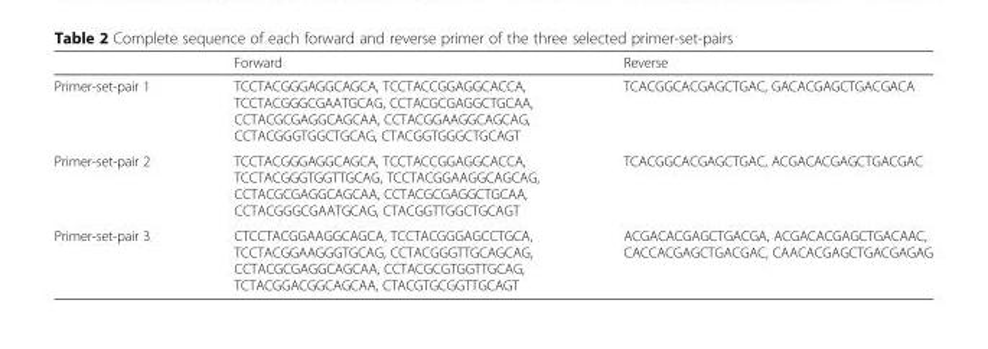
<table><thead><tr><td></td><td>Forward</td><td>Reverse</td></tr></thead><tbody><tr><td>Primer-set-pair 1</td><td>TCCTACGGGAGGCAGCA, TCCTACCGGAGGCACCA, TCCTACGGGCGAATGCAG, CCTACGCGAGGCTGCAA, CCTACGCGAGGCAGCAA, CCTACGGAAGGCAGCAG, CCTACGGGTGGCTGCAG, CTACGGTGGGCTGCAGT</td><td>TCACGGCACGAGCTGAC, GACACGAGCTGACGACA</td></tr><tr><td>Primer-set-pair 2</td><td>TCCTACGGGAGGCAGCA, TCCTACCGGAGGCACCA, TCCTACGGGTGGTTGCAG, TCCTACGGAAGGCAGCAG, CCTACGCGAGGCAGCAA, CCTACGCGAGGCTGCAA, CCTACGGGCGAATGCAG, CTACGGTTGGCTGCAGT</td><td>TCACGGCACGAGCTGAC, ACGACACGAGCTGACGAC</td></tr><tr><td>Primer-set-pair 3</td><td>CTCCTACGGAAGGCAGCA, TCCTACGGGAGCCTGCA, TCCTACGGAAGGGTGCAG, CCTACGGGTTGCAGCAG, CCTACGCGAGGCAGCAA, CCTACGCGTGGTTGCAG, TCTACGGACGGCAGCAA, CTACGTGCGGTTGCAGT</td><td>ACGACACGAGCTGACGA, ACGACACGAGCTGACAAC, CACCACGAGCTGACGAC, CAACACGAGCTGACGAGAG</td></tr></tbody></table>